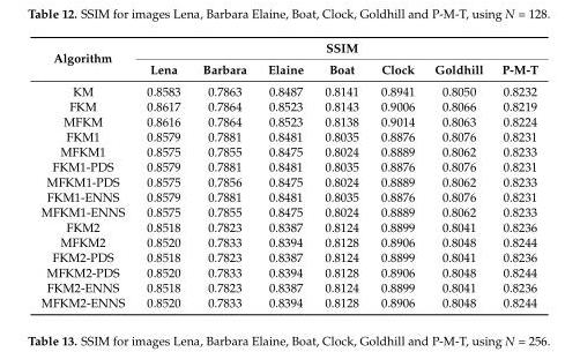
<table><thead><tr><td rowspan="2">Algorithm</td><td colspan="7">SSIM</td></tr><tr><td>Lena</td><td>Barbara</td><td>Elaine</td><td>Boat</td><td>Clock</td><td>Goldhill</td><td>P-M-T</td></tr></thead><tbody><tr><td>KM</td><td>0.8583</td><td>0.7863</td><td>0.8487</td><td>0.8141</td><td>0.8941</td><td>0.8050</td><td>0.8232</td></tr><tr><td>FKM</td><td>0.8617</td><td>0.7864</td><td>0.8523</td><td>0.8143</td><td>0.9006</td><td>0.8066</td><td>0.8219</td></tr><tr><td>MFKM</td><td>0.8616</td><td>0.7864</td><td>0.8523</td><td>0.8138</td><td>0.9014</td><td>0.8063</td><td>0.8224</td></tr><tr><td>FKM1</td><td>0.8579</td><td>0.7881</td><td>0.8481</td><td>0.8035</td><td>0.8876</td><td>0.8076</td><td>0.8231</td></tr><tr><td>MFKM1</td><td>0.8575</td><td>0.7855</td><td>0.8475</td><td>0.8024</td><td>0.8889</td><td>0.8062</td><td>0.8233</td></tr><tr><td>FKM1-PDS</td><td>0.8579</td><td>0.7881</td><td>0.8481</td><td>0.8035</td><td>0.8876</td><td>0.8076</td><td>0.8231</td></tr><tr><td>MFKM1-PDS</td><td>0.8575</td><td>0.7856</td><td>0.8475</td><td>0.8024</td><td>0.8889</td><td>0.8062</td><td>0.8233</td></tr><tr><td>FKM1-ENNS</td><td>0.8579</td><td>0.7881</td><td>0.8481</td><td>0.8035</td><td>0.8876</td><td>0.8076</td><td>0.8231</td></tr><tr><td>MFKM1-ENNS</td><td>0.8575</td><td>0.7855</td><td>0.8475</td><td>0.8024</td><td>0.8889</td><td>0.8062</td><td>0.8233</td></tr><tr><td>FKM2</td><td>0.8518</td><td>0.7823</td><td>0.8387</td><td>0.8124</td><td>0.8899</td><td>0.8041</td><td>0.8236</td></tr><tr><td>MFKM2</td><td>0.8520</td><td>0.7833</td><td>0.8394</td><td>0.8128</td><td>0.8906</td><td>0.8048</td><td>0.8244</td></tr><tr><td>FKM2-PDS</td><td>0.8518</td><td>0.7823</td><td>0.8387</td><td>0.8124</td><td>0.8899</td><td>0.8041</td><td>0.8236</td></tr><tr><td>MFKM2-PDS</td><td>0.8520</td><td>0.7833</td><td>0.8394</td><td>0.8128</td><td>0.8906</td><td>0.8048</td><td>0.8244</td></tr><tr><td>FKM2-ENNS</td><td>0.8518</td><td>0.7823</td><td>0.8387</td><td>0.8124</td><td>0.8899</td><td>0.8041</td><td>0.8236</td></tr><tr><td>MFKM2-ENNS</td><td>0.8520</td><td>0.7833</td><td>0.8394</td><td>0.8128</td><td>0.8906</td><td>0.8048</td><td>0.8244</td></tr></tbody></table>